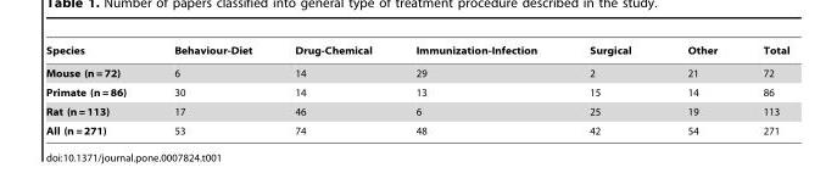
<table><thead><tr><td>Species</td><td>Behaviour-Diet</td><td>Drug-Chemical</td><td>Immunization-Infection</td><td>Surgical</td><td>Other</td><td>Total</td></tr></thead><tbody><tr><td>Mouse (n = 72)</td><td>6</td><td>14</td><td>29</td><td>2</td><td>21</td><td>72</td></tr><tr><td>Primate (n = 86)</td><td>30</td><td>14</td><td>13</td><td>15</td><td>14</td><td>86</td></tr><tr><td>Rat (n = 113)</td><td>17</td><td>46</td><td>6</td><td>25</td><td>19</td><td>113</td></tr><tr><td>All (n = 271)</td><td>53</td><td>74</td><td>48</td><td>42</td><td>54</td><td>271</td></tr></tbody></table>